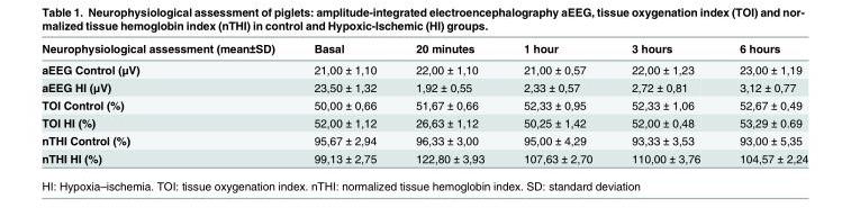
<table><thead><tr><td>Neurophysiological assessment (mean±SD)</td><td>Basal</td><td>20 minutes</td><td>1 hour</td><td>3 hours</td><td>6 hours</td></tr></thead><tbody><tr><td>aEEG Control (μV)</td><td>21,00 ± 1,10</td><td>22,00 ± 1,10</td><td>21,00 ± 0,57</td><td>22,00 ± 1,23</td><td>23,00 ± 1,19</td></tr><tr><td>aEEG HI (μV)</td><td>23,50 ± 1,32</td><td>1,92 ± 0,55</td><td>2,33 ± 0,57</td><td>2,72 ± 0,81</td><td>3,12 ± 0,77</td></tr><tr><td>TOI Control (%)</td><td>50,00 ± 0,66</td><td>51,67 ± 0,66</td><td>52,33 ± 0,95</td><td>52,33 ± 1,06</td><td>52,67 ± 0,49</td></tr><tr><td>TOI HI (%)</td><td>52,00 ± 1,12</td><td>26,63 ± 1,12</td><td>50,25 ± 1,42</td><td>52,00 ± 0,48</td><td>53,29 ± 0.69</td></tr><tr><td>nTHI Control (%)</td><td>95,67 ± 2,94</td><td>96,33 ± 3,00</td><td>95,00 ± 4,29</td><td>93,33 ± 3,53</td><td>93,00 ± 5,35</td></tr><tr><td>nTHI HI (%)</td><td>99,13 ± 2,75</td><td>122,80 ± 3,93</td><td>107,63 ± 2,70</td><td>110,00 ± 3,76</td><td>104,57 ± 2,24</td></tr></tbody></table>